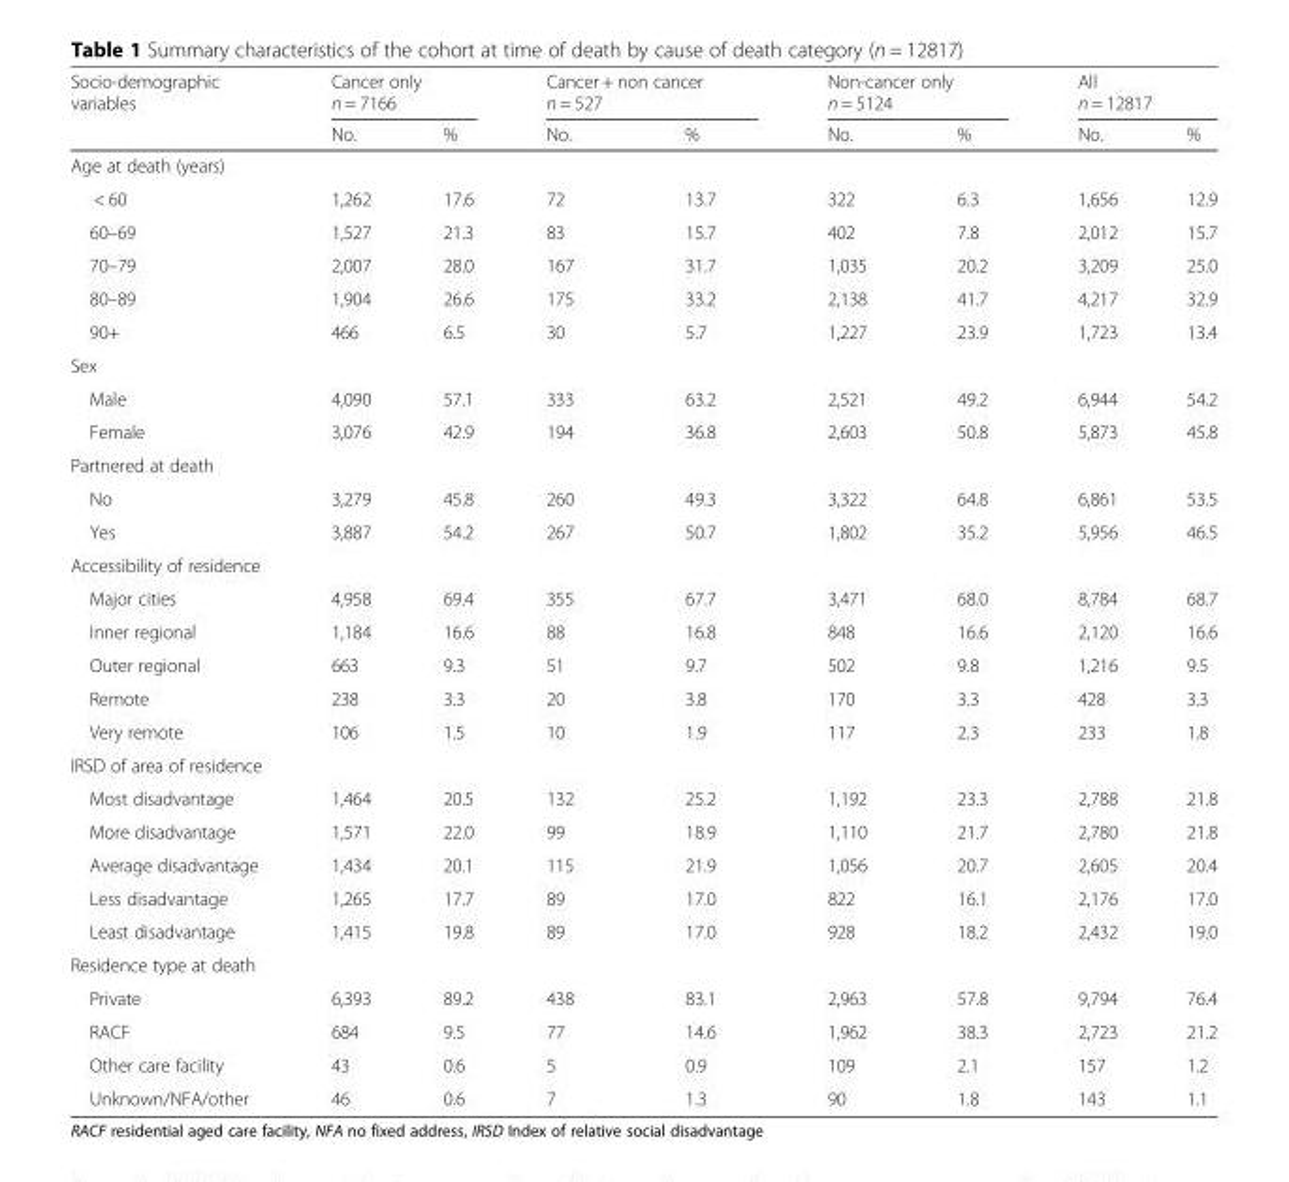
<table><thead><tr><td rowspan="3">Socio-demographic variables</td><td rowspan="2" colspan="2">Cancer only n = 7166</td><td rowspan="2" colspan="2">Cancer + non cancer n = 527</td><td rowspan="2" colspan="2">Non-cancer only n = 5124</td><td rowspan="2" colspan="2">All n = 12817</td></tr><tr></tr><tr><td>No.</td><td>%</td><td>No.</td><td>%</td><td>No.</td><td>%</td><td>No.</td><td>%</td></tr></thead><tbody><tr><td colspan="9">Age at death (years)</td></tr><tr><td>&lt; 60</td><td>1,262</td><td>17.6</td><td>72</td><td>13.7</td><td>322</td><td>6.3</td><td>1,656</td><td>12.9</td></tr><tr><td>60–69</td><td>1,527</td><td>21.3</td><td>83</td><td>15.7</td><td>402</td><td>7.8</td><td>2,012</td><td>15.7</td></tr><tr><td>70–79</td><td>2,007</td><td>28.0</td><td>167</td><td>31.7</td><td>1,035</td><td>20.2</td><td>3,209</td><td>25.0</td></tr><tr><td>80–89</td><td>1,904</td><td>26.6</td><td>175</td><td>33.2</td><td>2,138</td><td>41.7</td><td>4,217</td><td>32.9</td></tr><tr><td>90+</td><td>466</td><td>6.5</td><td>30</td><td>5.7</td><td>1,227</td><td>23.9</td><td>1,723</td><td>13.4</td></tr><tr><td colspan="9">Sex</td></tr><tr><td>Male</td><td>4,090</td><td>57.1</td><td>333</td><td>63.2</td><td>2,521</td><td>49.2</td><td>6,944</td><td>54.2</td></tr><tr><td>Female</td><td>3,076</td><td>42.9</td><td>194</td><td>36.8</td><td>2,603</td><td>50.8</td><td>5,873</td><td>45.8</td></tr><tr><td colspan="9">Partnered at death</td></tr><tr><td>No</td><td>3,279</td><td>45.8</td><td>260</td><td>49.3</td><td>3,322</td><td>64.8</td><td>6,861</td><td>53.5</td></tr><tr><td>Yes</td><td>3,887</td><td>54.2</td><td>267</td><td>50.7</td><td>1,802</td><td>35.2</td><td>5,956</td><td>46.5</td></tr><tr><td colspan="9">Accessibility of residence</td></tr><tr><td>Major cities</td><td>4,958</td><td>69.4</td><td>355</td><td>67.7</td><td>3,471</td><td>68.0</td><td>8,784</td><td>68.7</td></tr><tr><td>Inner regional</td><td>1,184</td><td>16.6</td><td>88</td><td>16.8</td><td>848</td><td>16.6</td><td>2,120</td><td>16.6</td></tr><tr><td>Outer regional</td><td>663</td><td>9.3</td><td>51</td><td>9.7</td><td>502</td><td>9.8</td><td>1,216</td><td>9.5</td></tr><tr><td>Remote</td><td>238</td><td>3.3</td><td>20</td><td>3.8</td><td>170</td><td>3.3</td><td>428</td><td>3.3</td></tr><tr><td>Very remote</td><td>106</td><td>1.5</td><td>10</td><td>1.9</td><td>117</td><td>2.3</td><td>233</td><td>1.8</td></tr><tr><td colspan="9">IRSD of area of residence</td></tr><tr><td>Most disadvantage</td><td>1,464</td><td>20.5</td><td>132</td><td>25.2</td><td>1,192</td><td>23.3</td><td>2,788</td><td>21.8</td></tr><tr><td>More disadvantage</td><td>1,571</td><td>22.0</td><td>99</td><td>18.9</td><td>1,110</td><td>21.7</td><td>2,780</td><td>21.8</td></tr><tr><td>Average disadvantage</td><td>1,434</td><td>20.1</td><td>115</td><td>21.9</td><td>1,056</td><td>20.7</td><td>2,605</td><td>20.4</td></tr><tr><td>Less disadvantage</td><td>1,265</td><td>17.7</td><td>89</td><td>17.0</td><td>822</td><td>16.1</td><td>2,176</td><td>17.0</td></tr><tr><td>Least disadvantage</td><td>1,415</td><td>19.8</td><td>89</td><td>17.0</td><td>928</td><td>18.2</td><td>2,432</td><td>19.0</td></tr><tr><td colspan="9">Residence type at death</td></tr><tr><td>Private</td><td>6,393</td><td>89.2</td><td>438</td><td>83.1</td><td>2,963</td><td>57.8</td><td>9,794</td><td>76.4</td></tr><tr><td>RACF</td><td>684</td><td>9.5</td><td>77</td><td>14.6</td><td>1,962</td><td>38.3</td><td>2,723</td><td>21.2</td></tr><tr><td>Other care facility</td><td>43</td><td>0.6</td><td>5</td><td>0.9</td><td>109</td><td>2.1</td><td>157</td><td>1.2</td></tr><tr><td>Unknown/NFA/other</td><td>46</td><td>0.6</td><td>7</td><td>1.3</td><td>90</td><td>1.8</td><td>143</td><td>1.1</td></tr></tbody></table>